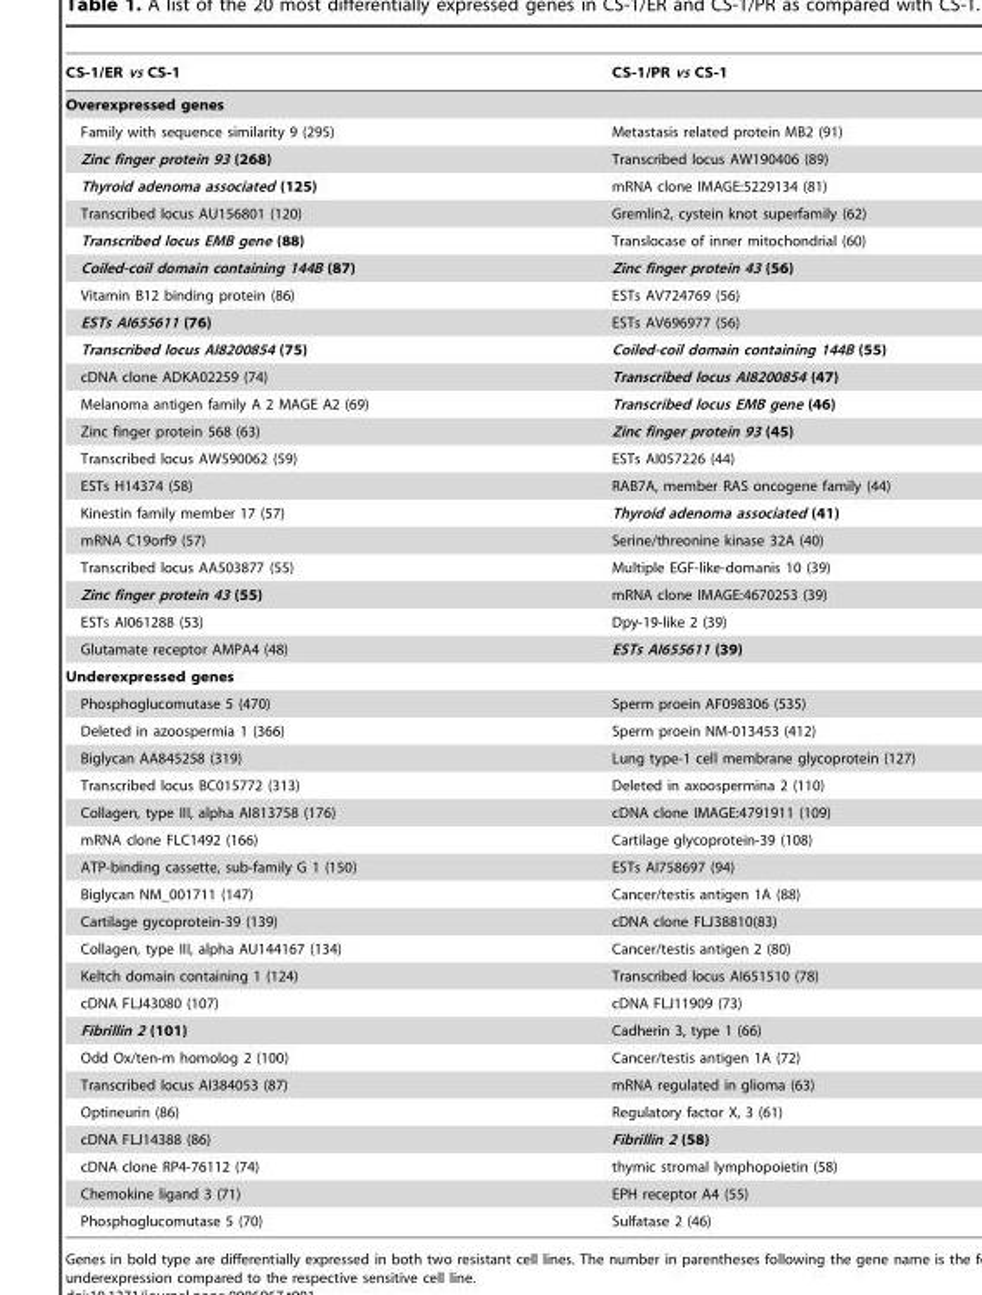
<table><thead><tr><td>CS-1/ER vs CS-1</td><td>CS-1/PR vs CS-1</td></tr></thead><tbody><tr><td colspan="2">Overexpressed genes</td></tr><tr><td>Family with sequence similarity 9 (295)</td><td>Metastasis related protein MB2 (91)</td></tr><tr><td>Zinc finger protein 93 (268)</td><td>Transcribed locus AW190406 (89)</td></tr><tr><td>Thyroid adenoma associated (125)</td><td>mRNA clone IMAGE:5229134 (81)</td></tr><tr><td>Transcribed locus AU156801 (120)</td><td>Gremlin2, cystein knot superfamily (62)</td></tr><tr><td>Transcribed locus EMB gene (88)</td><td>Translocase of inner mitochondrial (60)</td></tr><tr><td>Coiled-coil domain containing 144B (87)</td><td>Zinc finger protein 43 (56)</td></tr><tr><td>Vitamin B12 binding protein (86)</td><td>ESTs AV724769 (56)</td></tr><tr><td>ESTs AI655611 (76)</td><td>ESTs AV696977 (56)</td></tr><tr><td>Transcribed locus AI8200854 (75)</td><td>Coiled-coil domain containing 144B (55)</td></tr><tr><td>cDNA clone ADKA02259 (74)</td><td>Transcribed locus AI8200854 (47)</td></tr><tr><td>Melanoma antigen family A 2 MAGE A2 (69)</td><td>Transcribed locus EMB gene (46)</td></tr><tr><td>Zinc finger protein 568 (63)</td><td>Zinc finger protein 93 (45)</td></tr><tr><td>Transcribed locus AW590062 (59)</td><td>ESTs AI057226 (44)</td></tr><tr><td>ESTs H14374 (58)</td><td>RAB7A, member RAS oncogene family (44)</td></tr><tr><td>Kinestin family member 17 (57)</td><td>Thyroid adenoma associated (41)</td></tr><tr><td>mRNA C19orf9 (57)</td><td>Serine/threonine kinase 32A (40)</td></tr><tr><td>Transcribed locus AA503877 (55)</td><td>Multiple EGF-like-domanis 10 (39)</td></tr><tr><td>Zinc finger protein 43 (55)</td><td>mRNA clone IMAGE:4670253 (39)</td></tr><tr><td>ESTs AI061288 (53)</td><td>Dpy-19-like 2 (39)</td></tr><tr><td>Glutamate receptor AMPA4 (48)</td><td>ESTs AI655611 (39)</td></tr><tr><td colspan="2">Underexpressed genes</td></tr><tr><td>Phosphoglucomutase 5 (470)</td><td>Sperm proein AF098306 (535)</td></tr><tr><td>Deleted in azoospermia 1 (366)</td><td>Sperm proein NM-013453 (412)</td></tr><tr><td>Biglycan AA845258 (319)</td><td>Lung type-1 cell membrane glycoprotein (127)</td></tr><tr><td>Transcribed locus BC015772 (313)</td><td>Deleted in axoospermina 2 (110)</td></tr><tr><td>Collagen, type III, alpha AI813758 (176)</td><td>cDNA clone IMAGE:4791911 (109)</td></tr><tr><td>mRNA clone FLC1492 (166)</td><td>Cartilage glycoprotein-39 (108)</td></tr><tr><td>ATP-binding cassette, sub-family G 1 (150)</td><td>ESTs AI758697 (94)</td></tr><tr><td>Biglycan NM_001711 (147)</td><td>Cancer/testis antigen 1A (88)</td></tr><tr><td>Cartilage gycoprotein-39 (139)</td><td>cDNA clone FLJ38810(83)</td></tr><tr><td>Collagen, type III, alpha AU144167 (134)</td><td>Cancer/testis antigen 2 (80)</td></tr><tr><td>Keltch domain containing 1 (124)</td><td>Transcribed locus AI651510 (78)</td></tr><tr><td>cDNA FLJ43080 (107)</td><td>cDNA FLJ11909 (73)</td></tr><tr><td>Fibrillin 2 (101)</td><td>Cadherin 3, type 1 (66)</td></tr><tr><td>Odd Ox/ten-m homolog 2 (100)</td><td>Cancer/testis antigen 1A (72)</td></tr><tr><td>Transcribed locus AI384053 (87)</td><td>mRNA regulated in glioma (63)</td></tr><tr><td>Optineurin (86)</td><td>Regulatory factor X, 3 (61)</td></tr><tr><td>cDNA FLJ14388 (86)</td><td>Fibrillin 2 (58)</td></tr><tr><td>cDNA clone RP4-76112 (74)</td><td>thymic stromal lymphopoietin (58)</td></tr><tr><td>Chemokine ligand 3 (71)</td><td>EPH receptor A4 (55)</td></tr><tr><td>Phosphoglucomutase 5 (70)</td><td>Sulfatase 2 (46)</td></tr></tbody></table>